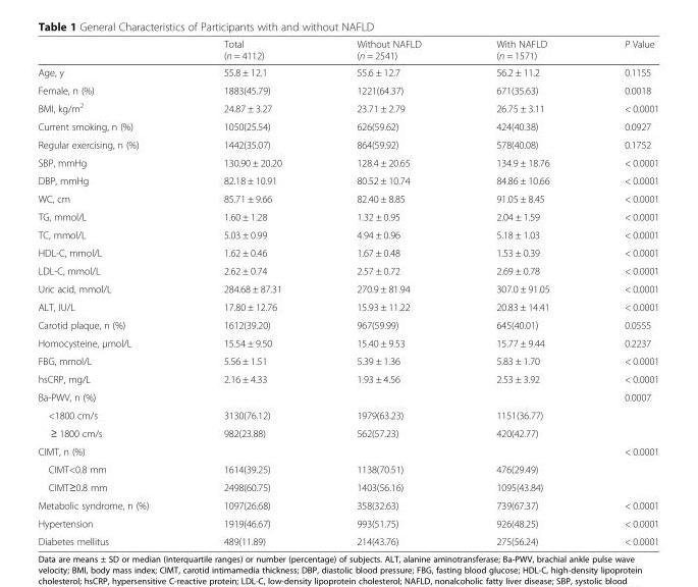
<table><thead><tr><td></td><td>Total (n = 4112)</td><td>Without NAFLD (n = 2541)</td><td>With NAFLD (n = 1571)</td><td>P Value</td></tr></thead><tbody><tr><td>Age, y</td><td>55.8 ± 12.1</td><td>55.6 ± 12.7</td><td>56.2 ± 11.2</td><td>0.1155</td></tr><tr><td>Female, n (%)</td><td>1883(45.79)</td><td>1221(64.37)</td><td>671(35.63)</td><td>0.0018</td></tr><tr><td>BMI, kg/m<sup>2</sup></td><td>24.87 ± 3.27</td><td>23.71 ± 2.79</td><td>26.75 ± 3.11</td><td>&lt; 0.0001</td></tr><tr><td>Current smoking, n (%)</td><td>1050(25.54)</td><td>626(59.62)</td><td>424(40.38)</td><td>0.0927</td></tr><tr><td>Regular exercising, n (%)</td><td>1442(35.07)</td><td>864(59.92)</td><td>578(40.08)</td><td>0.1752</td></tr><tr><td>SBP, mmHg</td><td>130.90 ± 20.20</td><td>128.4 ± 20.65</td><td>134.9 ± 18.76</td><td>&lt; 0.0001</td></tr><tr><td>DBP, mmHg</td><td>82.18 ± 10.91</td><td>80.52 ± 10.74</td><td>84.86 ± 10.66</td><td>&lt; 0.0001</td></tr><tr><td>WC, cm</td><td>85.71 ± 9.66</td><td>82.40 ± 8.85</td><td>91.05 ± 8.45</td><td>&lt; 0.0001</td></tr><tr><td>TG, mmol/L</td><td>1.60 ± 1.28</td><td>1.32 ± 0.95</td><td>2.04 ± 1.59</td><td>&lt; 0.0001</td></tr><tr><td>TC, mmol/L</td><td>5.03 ± 0.99</td><td>4.94 ± 0.96</td><td>5.18 ± 1.03</td><td>&lt; 0.0001</td></tr><tr><td>HDL-C, mmol/L</td><td>1.62 ± 0.46</td><td>1.67 ± 0.48</td><td>1.53 ± 0.39</td><td>&lt; 0.0001</td></tr><tr><td>LDL-C, mmol/L</td><td>2.62 ± 0.74</td><td>2.57 ± 0.72</td><td>2.69 ± 0.78</td><td>&lt; 0.0001</td></tr><tr><td>Uric acid, mmol/L</td><td>284.68 ± 87.31</td><td>270.9 ± 81.94</td><td>307.0 ± 91.05</td><td>&lt; 0.0001</td></tr><tr><td>ALT, IU/L</td><td>17.80 ± 12.76</td><td>15.93 ± 11.22</td><td>20.83 ± 14.41</td><td>&lt; 0.0001</td></tr><tr><td>Carotid plaque, n (%)</td><td>1612(39.20)</td><td>967(59.99)</td><td>645(40.01)</td><td>0.0555</td></tr><tr><td>Homocysteine, μmol/L</td><td>15.54 ± 9.50</td><td>15.40 ± 9.53</td><td>15.77 ± 9.44</td><td>0.2237</td></tr><tr><td>FBG, mmol/L</td><td>5.56 ± 1.51</td><td>5.39 ± 1.36</td><td>5.83 ± 1.70</td><td>&lt; 0.0001</td></tr><tr><td>hsCRP, mg/L</td><td>2.16 ± 4.33</td><td>1.93 ± 4.56</td><td>2.53 ± 3.92</td><td>&lt; 0.0001</td></tr><tr><td>Ba-PWV, n (%)</td><td></td><td></td><td></td><td>0.0007</td></tr><tr><td>&lt;1800 cm/s</td><td>3130(76.12)</td><td>1979(63.23)</td><td>1151(36.77)</td><td></td></tr><tr><td>≥ 1800 cm/s</td><td>982(23.88)</td><td>562(57.23)</td><td>420(42.77)</td><td></td></tr><tr><td>CIMT, n (%)</td><td></td><td></td><td></td><td>&lt; 0.0001</td></tr><tr><td>CIMT&lt;0.8 mm</td><td>1614(39.25)</td><td>1138(70.51)</td><td>476(29.49)</td><td></td></tr><tr><td>CIMT≥0.8 mm</td><td>2498(60.75)</td><td>1403(56.16)</td><td>1095(43.84)</td><td></td></tr><tr><td>Metabolic syndrome, n (%)</td><td>1097(26.68)</td><td>358(32.63)</td><td>739(67.37)</td><td>&lt; 0.0001</td></tr><tr><td>Hypertension</td><td>1919(46.67)</td><td>993(51.75)</td><td>926(48.25)</td><td>&lt; 0.0001</td></tr><tr><td>Diabetes mellitus</td><td>489(11.89)</td><td>214(43.76)</td><td>275(56.24)</td><td>&lt; 0.0001</td></tr></tbody></table>